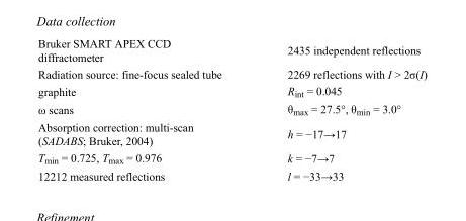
<table><tbody><tr><td>Bruker SMART APEX CCD diffractometer</td><td>2435 independent reflections</td></tr><tr><td>Radiation source: fine-focus sealed tube</td><td>2269 reflections with I &gt; 2σ(I)</td></tr><tr><td>graphite</td><td>R<sub>int</sub> = 0.045</td></tr><tr><td>ω scans</td><td>θ<sub>max</sub> = 27.5°, θ<sub>min</sub> = 3.0°</td></tr><tr><td>Absorption correction: multi-scan (SADABS; Bruker, 2004)</td><td>h = −17→17</td></tr><tr><td>T<sub>min</sub> = 0.725, T<sub>max</sub> = 0.976</td><td>k = −7→7</td></tr><tr><td>12212 measured reflections</td><td>l = −33→33</td></tr></tbody></table>